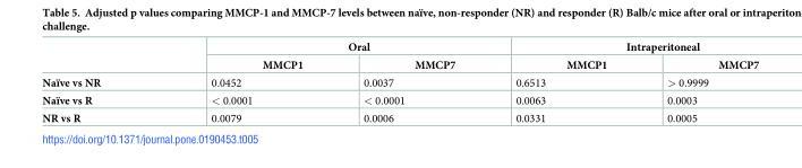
<table><thead><tr><td rowspan="2"></td><td colspan="2">Oral</td><td colspan="2">Intraperitoneal</td></tr><tr><td>MMCP1</td><td>MMCP7</td><td>MMCP1</td><td>MMCP7</td></tr></thead><tbody><tr><td>Naïve vs NR</td><td>0.0452</td><td>0.0037</td><td>0.6513</td><td>&gt; 0.9999</td></tr><tr><td>Naïve vs R</td><td>&lt; 0.0001</td><td>&lt; 0.0001</td><td>0.0063</td><td>0.0003</td></tr><tr><td>NR vs R</td><td>0.0079</td><td>0.0006</td><td>0.0331</td><td>0.0005</td></tr></tbody></table>